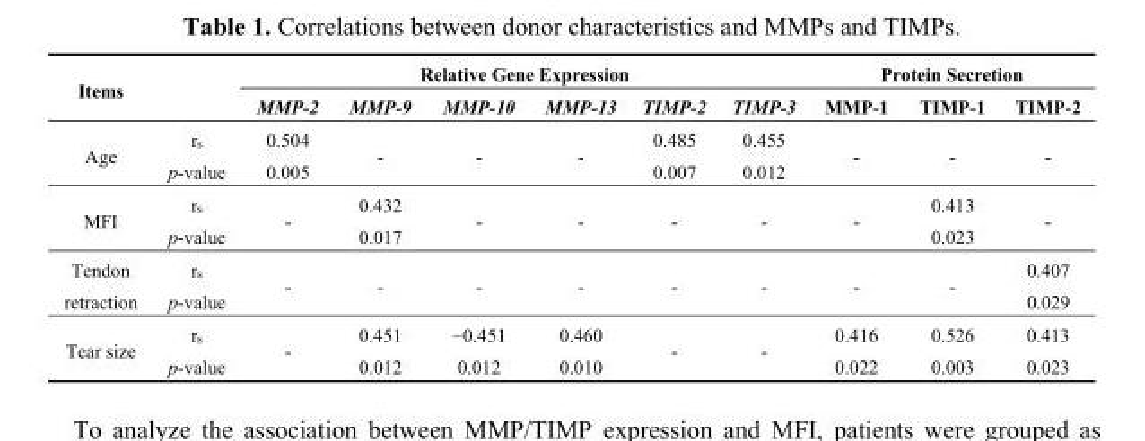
<table><thead><tr><td rowspan="2">Items</td><td rowspan="2"></td><td colspan="6">Relative Gene Expression</td><td colspan="3">Protein Secretion</td></tr><tr><td>MMP-2</td><td>MMP-9</td><td>MMP-10</td><td>MMP-13</td><td>TIMP-2</td><td>TIMP-3</td><td>MMP-1</td><td>TIMP-1</td><td>TIMP-2</td></tr></thead><tbody><tr><td rowspan="2">Age</td><td>r<sub>s</sub></td><td>0.504</td><td rowspan="2">-</td><td rowspan="2">-</td><td rowspan="2">-</td><td>0.485</td><td>0.455</td><td rowspan="2">-</td><td rowspan="2">-</td><td rowspan="2">-</td></tr><tr><td>p-value</td><td>0.005</td><td>0.007</td><td>0.012</td></tr><tr><td rowspan="2">MFI</td><td>r<sub>s</sub></td><td rowspan="2">-</td><td>0.432</td><td rowspan="2">-</td><td rowspan="2">-</td><td rowspan="2">-</td><td rowspan="2">-</td><td rowspan="2">-</td><td>0.413</td><td rowspan="2">-</td></tr><tr><td>p-value</td><td>0.017</td><td>0.023</td></tr><tr><td rowspan="2">Tendon retraction</td><td>r<sub>s</sub></td><td rowspan="2">-</td><td rowspan="2">-</td><td rowspan="2">-</td><td rowspan="2">-</td><td rowspan="2">-</td><td rowspan="2">-</td><td rowspan="2">-</td><td rowspan="2">-</td><td>0.407</td></tr><tr><td>p-value</td><td>0.029</td></tr><tr><td rowspan="2">Tear size</td><td>r<sub>s</sub></td><td rowspan="2">-</td><td>0.451</td><td>−0.451</td><td>0.460</td><td rowspan="2">-</td><td rowspan="2">-</td><td>0.416</td><td>0.526</td><td>0.413</td></tr><tr><td>p-value</td><td>0.012</td><td>0.012</td><td>0.010</td><td>0.022</td><td>0.003</td><td>0.023</td></tr></tbody></table>